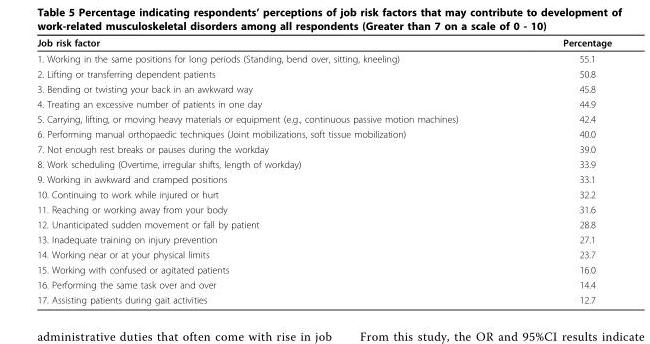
<table><thead><tr><td>Job risk factor</td><td>Percentage</td></tr></thead><tbody><tr><td>1. Working in the same positions for long periods (Standing, bend over, sitting, kneeling)</td><td>55.1</td></tr><tr><td>2. Lifting or transferring dependent patients</td><td>50.8</td></tr><tr><td>3. Bending or twisting your back in an awkward way</td><td>45.8</td></tr><tr><td>4. Treating an excessive number of patients in one day</td><td>44.9</td></tr><tr><td>5. Carrying, lifting, or moving heavy materials or equipment (e.g., continuous passive motion machines)</td><td>42.4</td></tr><tr><td>6. Performing manual orthopaedic techniques (Joint mobilizations, soft tissue mobilization)</td><td>40.0</td></tr><tr><td>7. Not enough rest breaks or pauses during the workday</td><td>39.0</td></tr><tr><td>8. Work scheduling (Overtime, irregular shifts, length of workday)</td><td>33.9</td></tr><tr><td>9. Working in awkward and cramped positions</td><td>33.1</td></tr><tr><td>10. Continuing to work while injured or hurt</td><td>32.2</td></tr><tr><td>11. Reaching or working away from your body</td><td>31.6</td></tr><tr><td>12. Unanticipated sudden movement or fall by patient</td><td>28.8</td></tr><tr><td>13. Inadequate training on injury prevention</td><td>27.1</td></tr><tr><td>14. Working near or at your physical limits</td><td>23.7</td></tr><tr><td>15. Working with confused or agitated patients</td><td>16.0</td></tr><tr><td>16. Performing the same task over and over</td><td>14.4</td></tr><tr><td>17. Assisting patients during gait activities</td><td>12.7</td></tr></tbody></table>